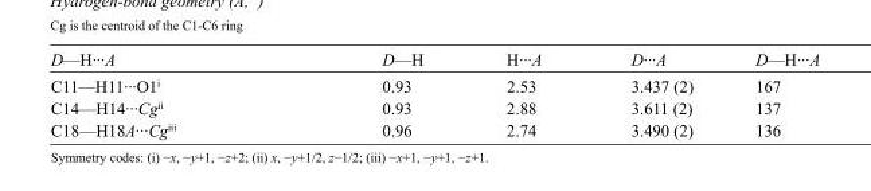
<table><tbody><tr><td>D—H···A</td><td>D—H</td><td>H···A</td><td>D···A</td><td>D—H···A</td></tr><tr><td>C11—H11···O1<sup>i</sup></td><td>0.93</td><td>2.53</td><td>3.437 (2)</td><td>167</td></tr><tr><td>C14—H14···Cg<sup>ii</sup></td><td>0.93</td><td>2.88</td><td>3.611 (2)</td><td>137</td></tr><tr><td>C18—H18A···Cg<sup>iii</sup></td><td>0.96</td><td>2.74</td><td>3.490 (2)</td><td>136</td></tr></tbody></table>